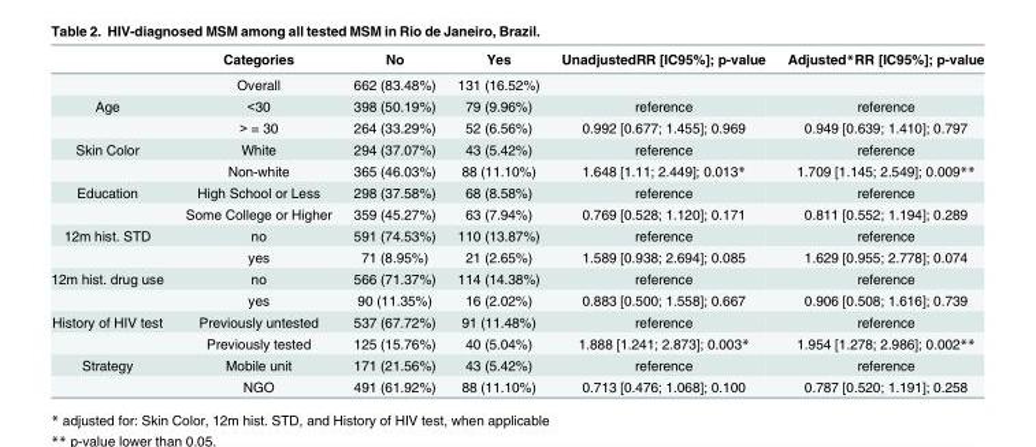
<table><thead><tr><td></td><td>Categories</td><td>No</td><td>Yes</td><td>UnadjustedRR [IC95%]; p-value</td><td>Adjusted*RR [IC95%]; p-value</td></tr></thead><tbody><tr><td></td><td>Overall</td><td>662 (83.48%)</td><td>131 (16.52%)</td><td></td><td></td></tr><tr><td rowspan="2">Age</td><td>&lt;30</td><td>398 (50.19%)</td><td>79 (9.96%)</td><td>reference</td><td>reference</td></tr><tr><td>&gt; = 30</td><td>264 (33.29%)</td><td>52 (6.56%)</td><td>0.992 [0.677; 1.455]; 0.969</td><td>0.949 [0.639; 1.410]; 0.797</td></tr><tr><td rowspan="2">Skin Color</td><td>White</td><td>294 (37.07%)</td><td>43 (5.42%)</td><td>reference</td><td>reference</td></tr><tr><td>Non-white</td><td>365 (46.03%)</td><td>88 (11.10%)</td><td>1.648 [1.11; 2.449]; 0.013*</td><td>1.709 [1.145; 2.549]; 0.009**</td></tr><tr><td rowspan="2">Education</td><td>High School or Less</td><td>298 (37.58%)</td><td>68 (8.58%)</td><td>reference</td><td>reference</td></tr><tr><td>Some College or Higher</td><td>359 (45.27%)</td><td>63 (7.94%)</td><td>0.769 [0.528; 1.120]; 0.171</td><td>0.811 [0.552; 1.194]; 0.289</td></tr><tr><td rowspan="2">12m hist. STD</td><td>no</td><td>591 (74.53%)</td><td>110 (13.87%)</td><td>reference</td><td>reference</td></tr><tr><td>yes</td><td>71 (8.95%)</td><td>21 (2.65%)</td><td>1.589 [0.938; 2.694]; 0.085</td><td>1.629 [0.955; 2.778]; 0.074</td></tr><tr><td rowspan="2">12m hist. drug use</td><td>no</td><td>566 (71.37%)</td><td>114 (14.38%)</td><td>reference</td><td>reference</td></tr><tr><td>yes</td><td>90 (11.35%)</td><td>16 (2.02%)</td><td>0.883 [0.500; 1.558]; 0.667</td><td>0.906 [0.508; 1.616]; 0.739</td></tr><tr><td rowspan="2">History of HIV test</td><td>Previously untested</td><td>537 (67.72%)</td><td>91 (11.48%)</td><td>reference</td><td>reference</td></tr><tr><td>Previously tested</td><td>125 (15.76%)</td><td>40 (5.04%)</td><td>1.888 [1.241; 2.873]; 0.003*</td><td>1.954 [1.278; 2.986]; 0.002**</td></tr><tr><td rowspan="2">Strategy</td><td>Mobile unit</td><td>171 (21.56%)</td><td>43 (5.42%)</td><td>reference</td><td>reference</td></tr><tr><td>NGO</td><td>491 (61.92%)</td><td>88 (11.10%)</td><td>0.713 [0.476; 1.068]; 0.100</td><td>0.787 [0.520; 1.191]; 0.258</td></tr></tbody></table>